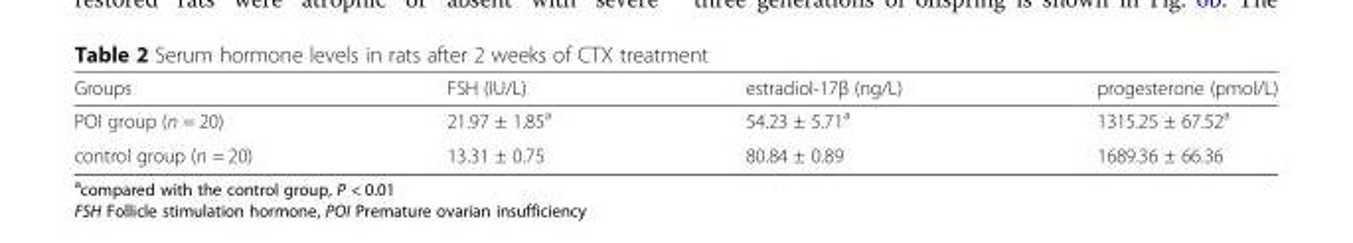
<table><thead><tr><td>Groups</td><td>FSH (IU/L)</td><td>estradiol-17β (ng/L)</td><td>progesterone (pmol/L)</td></tr></thead><tbody><tr><td>POI group (n = 20)</td><td>21.97 ± 1.85<sup>a</sup></td><td>54.23 ± 5.71<sup>a</sup></td><td>1315.25 ± 67.52<sup>a</sup></td></tr><tr><td>control group (n = 20)</td><td>13.31 ± 0.75</td><td>80.84 ± 0.89</td><td>1689.36 ± 66.36</td></tr></tbody></table>